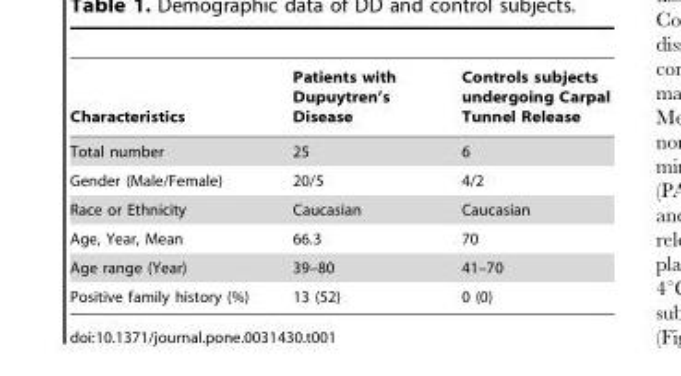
<table><thead><tr><td>Characteristics</td><td>Patients with Dupuytren’s Disease</td><td>Controls subjects undergoing Carpal Tunnel Release</td></tr></thead><tbody><tr><td>Total number</td><td>25</td><td>6</td></tr><tr><td>Gender (Male/Female)</td><td>20/5</td><td>4/2</td></tr><tr><td>Race or Ethnicity</td><td>Caucasian</td><td>Caucasian</td></tr><tr><td>Age, Year, Mean</td><td>66.3</td><td>70</td></tr><tr><td>Age range (Year)</td><td>39–80</td><td>41–70</td></tr><tr><td>Positive family history (%)</td><td>13 (52)</td><td>0 (0)</td></tr></tbody></table>